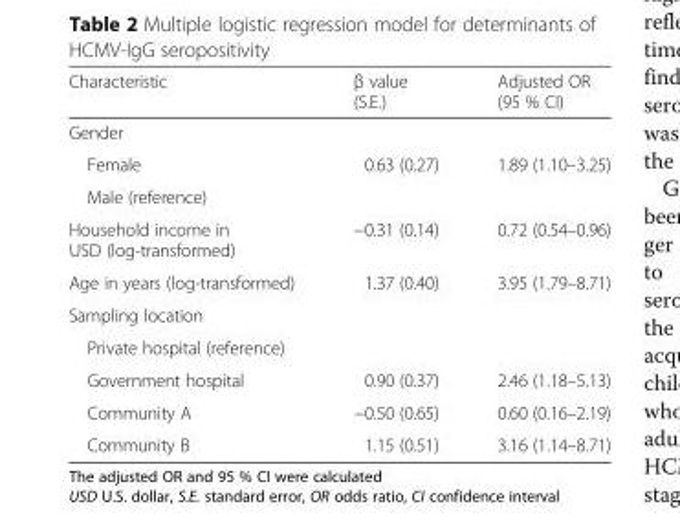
<table><thead><tr><td>Characteristic</td><td>β value (S.E.)</td><td>Adjusted OR (95 % CI)</td></tr></thead><tbody><tr><td colspan="3">Gender</td></tr><tr><td>Female</td><td>0.63 (0.27)</td><td>1.89 (1.10–3.25)</td></tr><tr><td colspan="3">Male (reference)</td></tr><tr><td>Household income in USD (log-transformed)</td><td>−0.31 (0.14)</td><td>0.72 (0.54–0.96)</td></tr><tr><td>Age in years (log-transformed)</td><td>1.37 (0.40)</td><td>3.95 (1.79–8.71)</td></tr><tr><td colspan="3">Sampling location</td></tr><tr><td colspan="3">Private hospital (reference)</td></tr><tr><td>Government hospital</td><td>0.90 (0.37)</td><td>2.46 (1.18–5.13)</td></tr><tr><td>Community A</td><td>−0.50 (0.65)</td><td>0.60 (0.16–2.19)</td></tr><tr><td>Community B</td><td>1.15 (0.51)</td><td>3.16 (1.14–8.71)</td></tr></tbody></table>